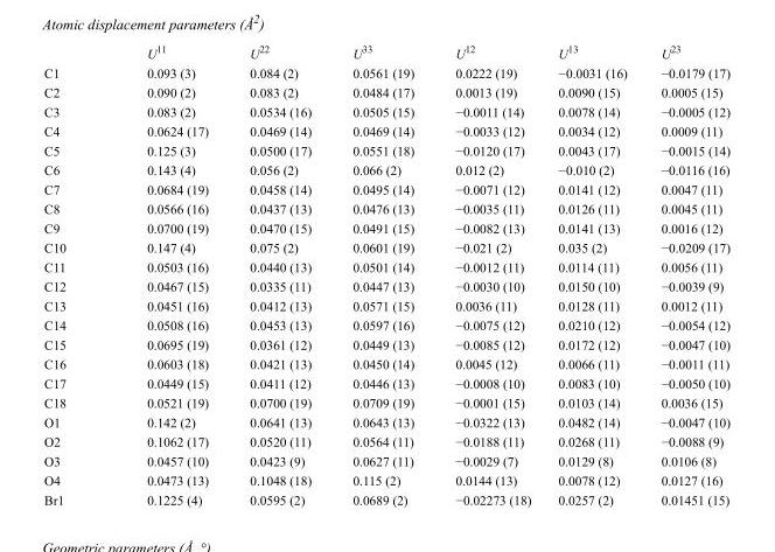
<table><thead><tr><td></td><td>U<sup>11</sup></td><td>U<sup>22</sup></td><td>U<sup>33</sup></td><td>U<sup>12</sup></td><td>U<sup>13</sup></td><td>U<sup>23</sup></td></tr></thead><tbody><tr><td>C1</td><td>0.093 (3)</td><td>0.084 (2)</td><td>0.0561 (19)</td><td>0.0222 (19)</td><td>−0.0031 (16)</td><td>−0.0179 (17)</td></tr><tr><td>C2</td><td>0.090 (2)</td><td>0.083 (2)</td><td>0.0484 (17)</td><td>0.0013 (19)</td><td>0.0090 (15)</td><td>0.0005 (15)</td></tr><tr><td>C3</td><td>0.083 (2)</td><td>0.0534 (16)</td><td>0.0505 (15)</td><td>−0.0011 (14)</td><td>0.0078 (14)</td><td>−0.0005 (12)</td></tr><tr><td>C4</td><td>0.0624 (17)</td><td>0.0469 (14)</td><td>0.0469 (14)</td><td>−0.0033 (12)</td><td>0.0034 (12)</td><td>0.0009 (11)</td></tr><tr><td>C5</td><td>0.125 (3)</td><td>0.0500 (17)</td><td>0.0551 (18)</td><td>−0.0120 (17)</td><td>0.0043 (17)</td><td>−0.0015 (14)</td></tr><tr><td>C6</td><td>0.143 (4)</td><td>0.056 (2)</td><td>0.066 (2)</td><td>0.012 (2)</td><td>−0.010 (2)</td><td>−0.0116 (16)</td></tr><tr><td>C7</td><td>0.0684 (19)</td><td>0.0458 (14)</td><td>0.0495 (14)</td><td>−0.0071 (12)</td><td>0.0141 (12)</td><td>0.0047 (11)</td></tr><tr><td>C8</td><td>0.0566 (16)</td><td>0.0437 (13)</td><td>0.0476 (13)</td><td>−0.0035 (11)</td><td>0.0126 (11)</td><td>0.0045 (11)</td></tr><tr><td>C9</td><td>0.0700 (19)</td><td>0.0470 (15)</td><td>0.0491 (15)</td><td>−0.0082 (13)</td><td>0.0141 (13)</td><td>0.0016 (12)</td></tr><tr><td>C10</td><td>0.147 (4)</td><td>0.075 (2)</td><td>0.0601 (19)</td><td>−0.021 (2)</td><td>0.035 (2)</td><td>−0.0209 (17)</td></tr><tr><td>C11</td><td>0.0503 (16)</td><td>0.0440 (13)</td><td>0.0501 (14)</td><td>−0.0012 (11)</td><td>0.0114 (11)</td><td>0.0056 (11)</td></tr><tr><td>C12</td><td>0.0467 (15)</td><td>0.0335 (11)</td><td>0.0447 (13)</td><td>−0.0030 (10)</td><td>0.0150 (10)</td><td>−0.0039 (9)</td></tr><tr><td>C13</td><td>0.0451 (16)</td><td>0.0412 (13)</td><td>0.0571 (15)</td><td>0.0036 (11)</td><td>0.0128 (11)</td><td>0.0012 (11)</td></tr><tr><td>C14</td><td>0.0508 (16)</td><td>0.0453 (13)</td><td>0.0597 (16)</td><td>−0.0075 (12)</td><td>0.0210 (12)</td><td>−0.0054 (12)</td></tr><tr><td>C15</td><td>0.0695 (19)</td><td>0.0361 (12)</td><td>0.0449 (13)</td><td>−0.0085 (12)</td><td>0.0172 (12)</td><td>−0.0047 (10)</td></tr><tr><td>C16</td><td>0.0603 (18)</td><td>0.0421 (13)</td><td>0.0450 (14)</td><td>0.0045 (12)</td><td>0.0066 (11)</td><td>−0.0011 (11)</td></tr><tr><td>C17</td><td>0.0449 (15)</td><td>0.0411 (12)</td><td>0.0446 (13)</td><td>−0.0008 (10)</td><td>0.0083 (10)</td><td>−0.0050 (10)</td></tr><tr><td>C18</td><td>0.0521 (19)</td><td>0.0700 (19)</td><td>0.0709 (19)</td><td>−0.0001 (15)</td><td>0.0103 (14)</td><td>0.0036 (15)</td></tr><tr><td>O1</td><td>0.142 (2)</td><td>0.0641 (13)</td><td>0.0643 (13)</td><td>−0.0322 (13)</td><td>0.0482 (14)</td><td>−0.0047 (10)</td></tr><tr><td>O2</td><td>0.1062 (17)</td><td>0.0520 (11)</td><td>0.0564 (11)</td><td>−0.0188 (11)</td><td>0.0268 (11)</td><td>−0.0088 (9)</td></tr><tr><td>O3</td><td>0.0457 (10)</td><td>0.0423 (9)</td><td>0.0627 (11)</td><td>−0.0029 (7)</td><td>0.0129 (8)</td><td>0.0106 (8)</td></tr><tr><td>O4</td><td>0.0473 (13)</td><td>0.1048 (18)</td><td>0.115 (2)</td><td>0.0144 (13)</td><td>0.0078 (12)</td><td>0.0127 (16)</td></tr><tr><td>Br1</td><td>0.1225 (4)</td><td>0.0595 (2)</td><td>0.0689 (2)</td><td>−0.02273 (18)</td><td>0.0257 (2)</td><td>0.01451 (15)</td></tr></tbody></table>